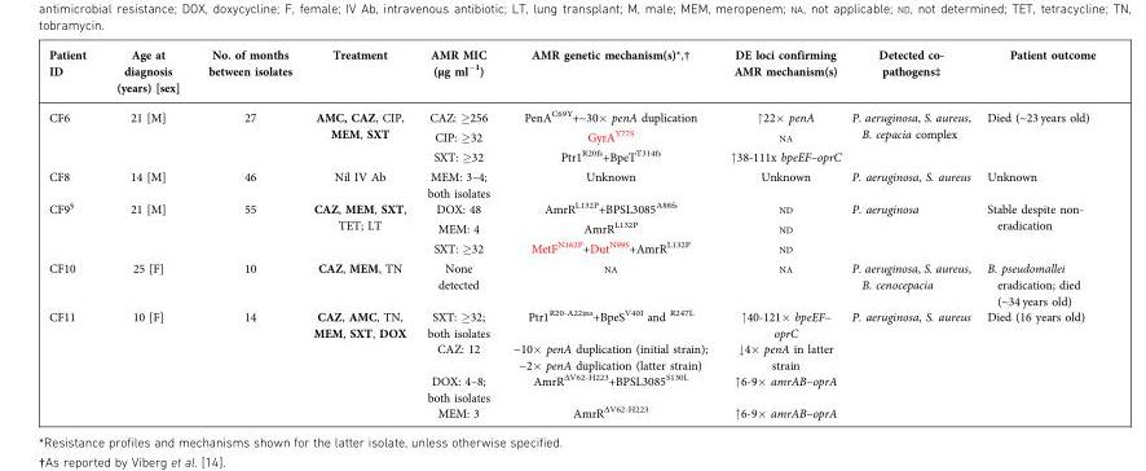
<table><thead><tr><td>Patient ID</td><td>Age at diagnosis (years) [sex]</td><td>No. of months between isolates</td><td>Treatment</td><td>AMR MIC (µg ml<sup>−1</sup>)</td><td>AMR genetic mechanism(s)*,†</td><td>DE loci confirming AMR mechanism(s)</td><td>Detected co- pathogens‡</td><td>Patient outcome</td></tr></thead><tbody><tr><td rowspan="3">CF6</td><td rowspan="3">21 [M]</td><td rowspan="3">27</td><td rowspan="3">AMC, CAZ, CIP, MEM, SXT</td><td>CAZ: ≥256</td><td>PenA<sup>C69Y</sup>+~30× penA duplication</td><td>↑22× penA</td><td rowspan="3">P. aeruginosa, S. aureus, B. cepacia complex</td><td rowspan="3">Died (~23 years old)</td></tr><tr><td>CIP: ≥32</td><td>GyrA<sup>Y77S</sup></td><td>NA</td></tr><tr><td>SXT: ≥32</td><td>Ptr1<sup>R20fs</sup>+BpeT<sup>T314fs</sup></td><td>↑38-111x bpeEF–oprC</td></tr><tr><td>CF8</td><td>14 [M]</td><td>46</td><td>Nil IV Ab</td><td>MEM: 3–4; both isolates</td><td>Unknown</td><td>Unknown</td><td>P. aeruginosa, S. aureus</td><td>Unknown</td></tr><tr><td rowspan="3">CF9<sup>§</sup></td><td rowspan="3">21 [M]</td><td rowspan="3">55</td><td rowspan="3">CAZ, MEM, SXT, TET; LT</td><td>DOX: 48</td><td>AmrR<sup>L132P</sup>+BPSL3085<sup>A88fs</sup></td><td>ND</td><td rowspan="3">P. aeruginosa</td><td rowspan="3">Stable despite non- eradication</td></tr><tr><td>MEM: 4</td><td>AmrR<sup>L132P</sup></td><td>ND</td></tr><tr><td>SXT: ≥32</td><td>MetF<sup>N162P</sup>+Dut<sup>N99S</sup>+AmrR<sup>L132P</sup></td><td>ND</td></tr><tr><td>CF10</td><td>25 [F]</td><td>10</td><td>CAZ, MEM, TN</td><td>None detected</td><td>NA</td><td>NA</td><td>P. aeruginosa, S. aureus, B. cenocepacia</td><td>B. pseudomallei eradication; died (~34 years old)</td></tr><tr><td rowspan="4">CF11</td><td rowspan="4">10 [F]</td><td rowspan="4">14</td><td rowspan="4">CAZ, AMC, TN, MEM, SXT, DOX</td><td>SXT: ≥32; both isolates</td><td>Ptr1<sup>R20-A22ins</sup>+BpeS<sup>V40I</sup> and <sup>R247L</sup></td><td>↑40-121× bpeEF– oprC</td><td rowspan="4">P. aeruginosa, S. aureus</td><td rowspan="4">Died (16 years old)</td></tr><tr><td>CAZ: 12</td><td>~10× penA duplication (initial strain); ~2× penA duplication (latter strain)</td><td>↓4× penA in latter strain</td></tr><tr><td>DOX: 4–8; both isolates</td><td>AmrR<sup>ΔV62-H223</sup>+BPSL3085<sup>S130L</sup></td><td>↑6-9× amrAB–oprA</td></tr><tr><td>MEM: 3</td><td>AmrR<sup>ΔV62-H223</sup></td><td>↑6-9× amrAB–oprA</td></tr></tbody></table>